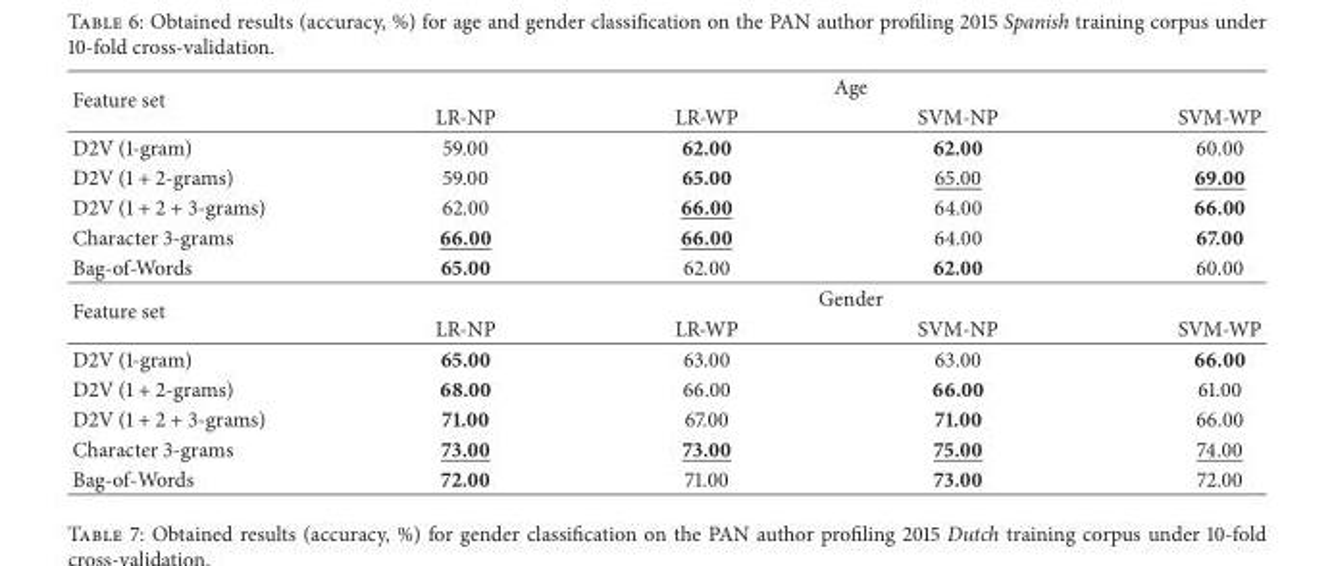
<table><thead><tr><td rowspan="2">Feature set</td><td colspan="4">Age</td></tr><tr><td>LR-NP</td><td>LR-WP</td><td>SVM-NP</td><td>SVM-WP</td></tr></thead><tbody><tr><td>D2V (1-gram)</td><td>59.00</td><td>62.00</td><td>62.00</td><td>60.00</td></tr><tr><td>D2V (1 + 2-grams)</td><td>59.00</td><td>65.00</td><td>65.00</td><td>69.00</td></tr><tr><td>D2V (1 + 2 + 3-grams)</td><td>62.00</td><td>66.00</td><td>64.00</td><td>66.00</td></tr><tr><td>Character 3-grams</td><td>66.00</td><td>66.00</td><td>64.00</td><td>67.00</td></tr><tr><td>Bag-of-Words</td><td>65.00</td><td>62.00</td><td>62.00</td><td>60.00</td></tr><tr><td rowspan="2">Feature set</td><td colspan="4">Gender</td></tr><tr><td>LR-NP</td><td>LR-WP</td><td>SVM-NP</td><td>SVM-WP</td></tr><tr><td>D2V (1-gram)</td><td>65.00</td><td>63.00</td><td>63.00</td><td>66.00</td></tr><tr><td>D2V (1 + 2-grams)</td><td>68.00</td><td>66.00</td><td>66.00</td><td>61.00</td></tr><tr><td>D2V (1 + 2 + 3-grams)</td><td>71.00</td><td>67.00</td><td>71.00</td><td>66.00</td></tr><tr><td>Character 3-grams</td><td>73.00</td><td>73.00</td><td>75.00</td><td>74.00</td></tr><tr><td>Bag-of-Words</td><td>72.00</td><td>71.00</td><td>73.00</td><td>72.00</td></tr></tbody></table>